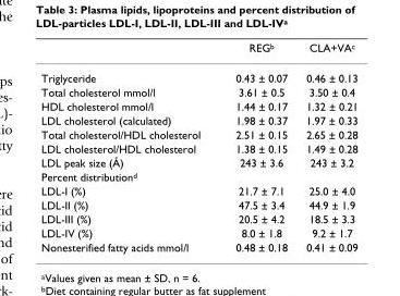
<table><thead><tr><td></td><td>REG<sup>b</sup></td><td>CLA+VA<sup>c</sup></td></tr></thead><tbody><tr><td>Triglyceride</td><td>0.43 ± 0.07</td><td>0.46 ± 0.13</td></tr><tr><td>Total cholesterol mmol/l</td><td>3.61 ± 0.5</td><td>3.50 ± 0.4</td></tr><tr><td>HDL cholesterol mmol/l</td><td>1.44 ± 0.17</td><td>1.32 ± 0.21</td></tr><tr><td>LDL cholesterol (calculated)</td><td>1.98 ± 0.37</td><td>1.97 ± 0.33</td></tr><tr><td>Total cholesterol/HDL cholesterol</td><td>2.51 ± 0.15</td><td>2.65 ± 0.28</td></tr><tr><td>LDL cholesterol/HDL cholesterol</td><td>1.38 ± 0.15</td><td>1.49 ± 0.28</td></tr><tr><td>LDL peak size (Å)</td><td>243 ± 3.6</td><td>243 ± 3.2</td></tr><tr><td colspan="3">Percent distribution<sup>d</sup></td></tr><tr><td>LDL-I (%)</td><td>21.7 ± 7.1</td><td>25.0 ± 4.0</td></tr><tr><td>LDL-II (%)</td><td>47.5 ± 3.4</td><td>44.9 ± 1.9</td></tr><tr><td>LDL-III (%)</td><td>20.5 ± 4.2</td><td>18.5 ± 3.3</td></tr><tr><td>LDL-IV (%)</td><td>8.0 ± 1.8</td><td>9.2 ± 1.7</td></tr><tr><td>Nonesterified fatty acids mmol/l</td><td>0.48 ± 0.18</td><td>0.41 ± 0.09</td></tr></tbody></table>